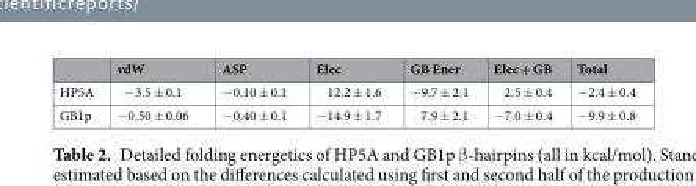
<table><thead><tr><td></td><td>vdW</td><td>ASP</td><td>Elec</td><td>GB Ener</td><td>Elec + GB</td><td>Total</td></tr></thead><tbody><tr><td>HP5A</td><td>−3.5 ± 0.1</td><td>−0.10 ± 0.1</td><td>12.2 ± 1.6</td><td>−9.7 ± 2.1</td><td>2.5 ± 0.4</td><td>−2.4 ± 0.4</td></tr><tr><td>GB1p</td><td>−0.50 ± 0.06</td><td>−0.40 ± 0.1</td><td>−14.9 ± 1.7</td><td>7.9 ± 2.1</td><td>−7.0 ± 0.4</td><td>−9.9 ± 0.8</td></tr></tbody></table>